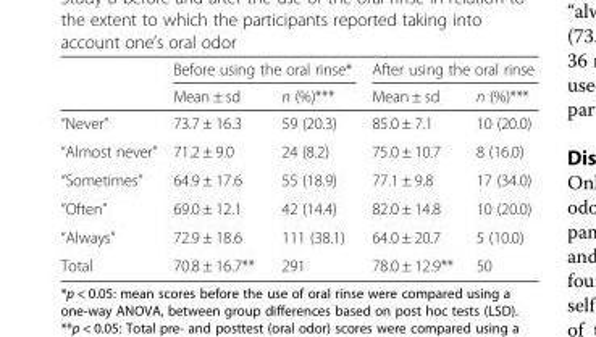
<table><thead><tr><td rowspan="2"></td><td colspan="2">Before using the oral rinse*</td><td colspan="2">After using the oral rinse</td></tr><tr><td>Mean ± sd</td><td>n (%)***</td><td>Mean ± sd</td><td>n (%)***</td></tr></thead><tbody><tr><td>“Never”</td><td>73.7 ± 16.3</td><td>59 (20.3)</td><td>85.0 ± 7.1</td><td>10 (20.0)</td></tr><tr><td>“Almost never”</td><td>71.2 ± 9.0</td><td>24 (8.2)</td><td>75.0 ± 10.7</td><td>8 (16.0)</td></tr><tr><td>“Sometimes”</td><td>64.9 ± 17.6</td><td>55 (18.9)</td><td>77.1 ± 9.8</td><td>17 (34.0)</td></tr><tr><td>“Often”</td><td>69.0 ± 12.1</td><td>42 (14.4)</td><td>82.0 ± 14.8</td><td>10 (20.0)</td></tr><tr><td>“Always”</td><td>72.9 ± 18.6</td><td>111 (38.1)</td><td>64.0 ± 20.7</td><td>5 (10.0)</td></tr><tr><td>Total</td><td>70.8 ± 16.7**</td><td>291</td><td>78.0 ± 12.9**</td><td>50</td></tr></tbody></table>